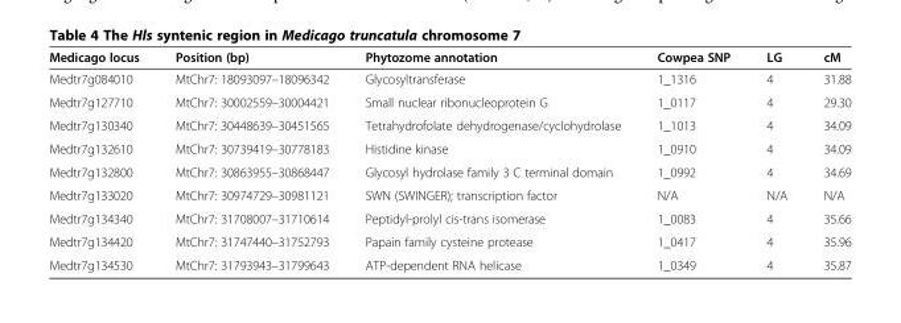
<table><thead><tr><td>Medicago locus</td><td>Position (bp)</td><td>Phytozome annotation</td><td>Cowpea SNP</td><td>LG</td><td>cM</td></tr></thead><tbody><tr><td>Medtr7g084010</td><td>MtChr7: 18093097–18096342</td><td>Glycosyltransferase</td><td>1_1316</td><td>4</td><td>31.88</td></tr><tr><td>Medtr7g127710</td><td>MtChr7: 30002559–30004421</td><td>Small nuclear ribonucleoprotein G</td><td>1_0117</td><td>4</td><td>29.30</td></tr><tr><td>Medtr7g130340</td><td>MtChr7: 30448639–30451565</td><td>Tetrahydrofolate dehydrogenase/cyclohydrolase</td><td>1_1013</td><td>4</td><td>34.09</td></tr><tr><td>Medtr7g132610</td><td>MtChr7: 30739419–30778183</td><td>Histidine kinase</td><td>1_0910</td><td>4</td><td>34.09</td></tr><tr><td>Medtr7g132800</td><td>MtChr7: 30863955–30868447</td><td>Glycosyl hydrolase family 3 C terminal domain</td><td>1_0992</td><td>4</td><td>34.69</td></tr><tr><td>Medtr7g133020</td><td>MtChr7: 30974729–30981121</td><td>SWN (SWINGER); transcription factor</td><td>N/A</td><td>N/A</td><td>N/A</td></tr><tr><td>Medtr7g134340</td><td>MtChr7: 31708007–31710614</td><td>Peptidyl-prolyl cis-trans isomerase</td><td>1_0083</td><td>4</td><td>35.66</td></tr><tr><td>Medtr7g134420</td><td>MtChr7: 31747440–31752793</td><td>Papain family cysteine protease</td><td>1_0417</td><td>4</td><td>35.96</td></tr><tr><td>Medtr7g134530</td><td>MtChr7: 31793943–31799643</td><td>ATP-dependent RNA helicase</td><td>1_0349</td><td>4</td><td>35.87</td></tr></tbody></table>